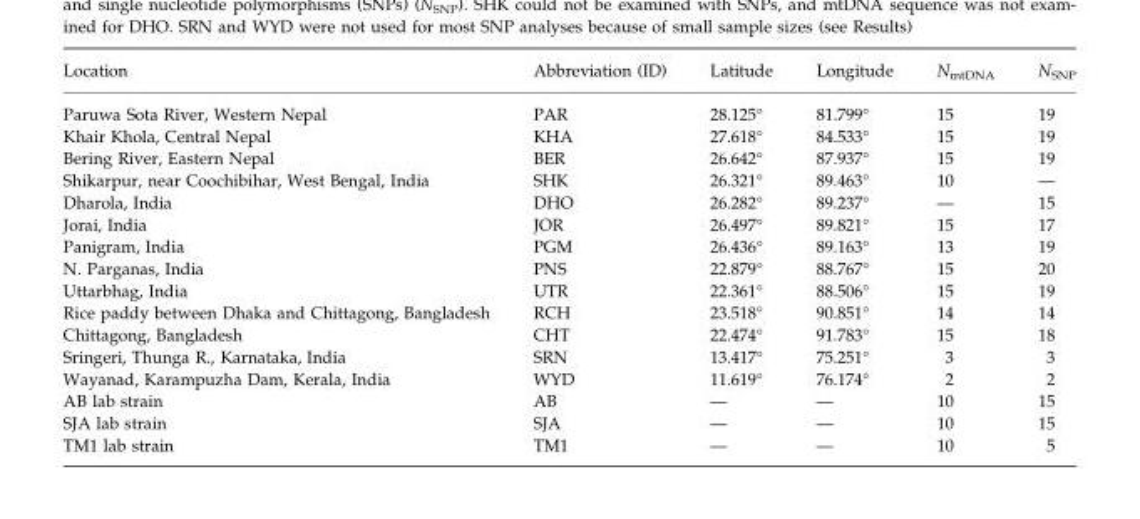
<table><thead><tr><td>Location</td><td>Abbreviation (ID)</td><td>Latitude</td><td>Longitude</td><td>N<sub>mtDNA</sub></td><td>N<sub>SNP</sub></td></tr></thead><tbody><tr><td>Paruwa Sota River, Western Nepal</td><td>PAR</td><td>28.125°</td><td>81.799°</td><td>15</td><td>19</td></tr><tr><td>Khair Khola, Central Nepal</td><td>KHA</td><td>27.618°</td><td>84.533°</td><td>15</td><td>19</td></tr><tr><td>Bering River, Eastern Nepal</td><td>BER</td><td>26.642°</td><td>87.937°</td><td>15</td><td>19</td></tr><tr><td>Shikarpur, near Coochibihar, West Bengal, India</td><td>SHK</td><td>26.321°</td><td>89.463°</td><td>10</td><td>—</td></tr><tr><td>Dharola, India</td><td>DHO</td><td>26.282°</td><td>89.237°</td><td>—</td><td>15</td></tr><tr><td>Jorai, India</td><td>JOR</td><td>26.497°</td><td>89.821°</td><td>15</td><td>17</td></tr><tr><td>Panigram, India</td><td>PGM</td><td>26.436°</td><td>89.163°</td><td>13</td><td>19</td></tr><tr><td>N. Parganas, India</td><td>PNS</td><td>22.879°</td><td>88.767°</td><td>15</td><td>20</td></tr><tr><td>Uttarbhag, India</td><td>UTR</td><td>22.361°</td><td>88.506°</td><td>15</td><td>19</td></tr><tr><td>Rice paddy between Dhaka and Chittagong, Bangladesh</td><td>RCH</td><td>23.518°</td><td>90.851°</td><td>14</td><td>14</td></tr><tr><td>Chittagong, Bangladesh</td><td>CHT</td><td>22.474°</td><td>91.783°</td><td>15</td><td>18</td></tr><tr><td>Sringeri, Thunga R., Karnataka, India</td><td>SRN</td><td>13.417°</td><td>75.251°</td><td>3</td><td>3</td></tr><tr><td>Wayanad, Karampuzha Dam, Kerala, India</td><td>WYD</td><td>11.619°</td><td>76.174°</td><td>2</td><td>2</td></tr><tr><td>AB lab strain</td><td>AB</td><td>—</td><td>—</td><td>10</td><td>15</td></tr><tr><td>SJA lab strain</td><td>SJA</td><td>—</td><td>—</td><td>10</td><td>15</td></tr><tr><td>TM1 lab strain</td><td>TM1</td><td>—</td><td>—</td><td>10</td><td>5</td></tr></tbody></table>